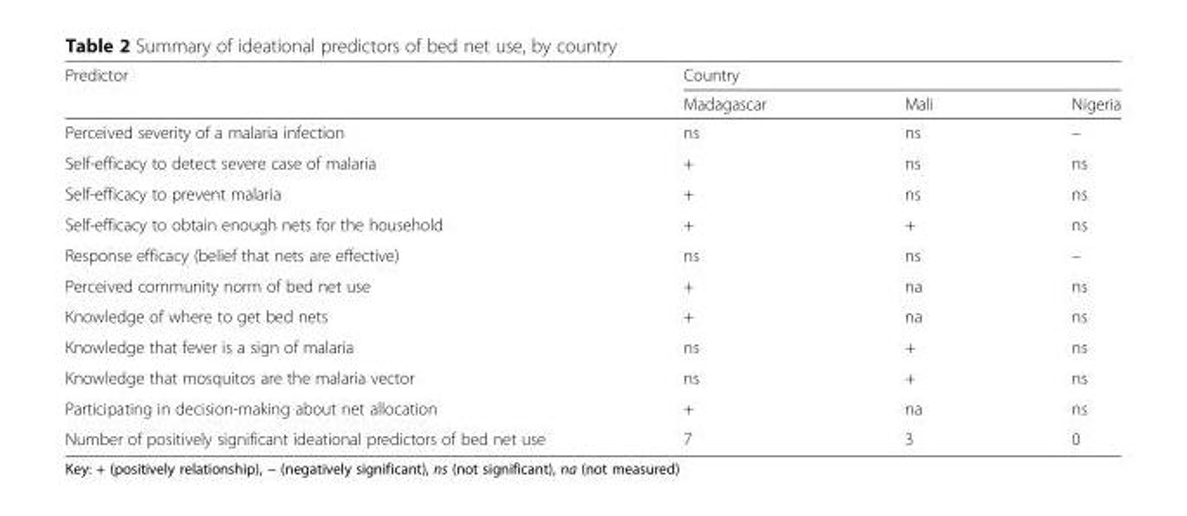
<table><thead><tr><td rowspan="2">Predictor</td><td colspan="3">Country</td></tr><tr><td>Madagascar</td><td>Mali</td><td>Nigeria</td></tr></thead><tbody><tr><td>Perceived severity of a malaria infection</td><td>ns</td><td>ns</td><td>–</td></tr><tr><td>Self-efficacy to detect severe case of malaria</td><td>+</td><td>ns</td><td>ns</td></tr><tr><td>Self-efficacy to prevent malaria</td><td>+</td><td>ns</td><td>ns</td></tr><tr><td>Self-efficacy to obtain enough nets for the household</td><td>+</td><td>+</td><td>ns</td></tr><tr><td>Response efficacy (belief that nets are effective)</td><td>ns</td><td>ns</td><td>–</td></tr><tr><td>Perceived community norm of bed net use</td><td>+</td><td>na</td><td>ns</td></tr><tr><td>Knowledge of where to get bed nets</td><td>+</td><td>na</td><td>ns</td></tr><tr><td>Knowledge that fever is a sign of malaria</td><td>ns</td><td>+</td><td>ns</td></tr><tr><td>Knowledge that mosquitos are the malaria vector</td><td>ns</td><td>+</td><td>ns</td></tr><tr><td>Participating in decision-making about net allocation</td><td>+</td><td>na</td><td>ns</td></tr><tr><td>Number of positively significant ideational predictors of bed net use</td><td>7</td><td>3</td><td>0</td></tr></tbody></table>